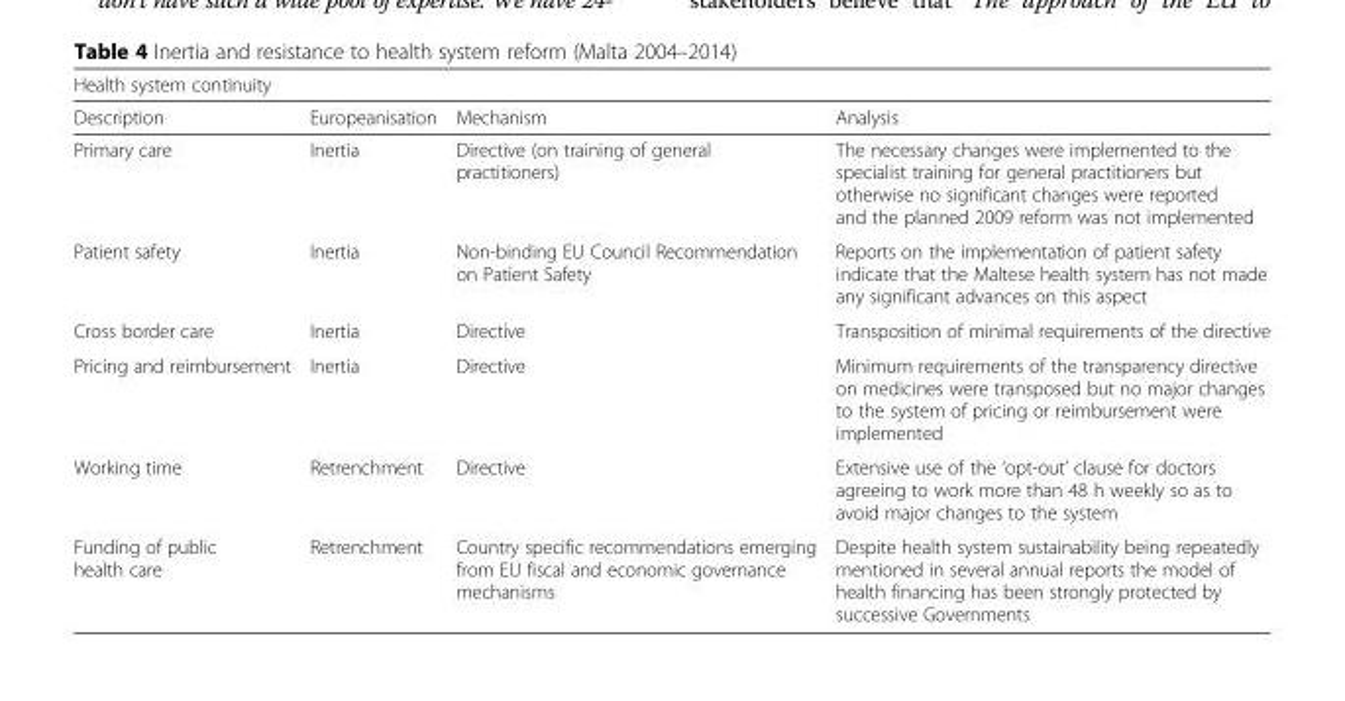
<table><thead><tr><td colspan="4">Health system continuity</td></tr><tr><td>Description</td><td>Europeanisation</td><td>Mechanism</td><td>Analysis</td></tr></thead><tbody><tr><td>Primary care</td><td>Inertia</td><td>Directive (on training of general practitioners)</td><td>The necessary changes were implemented to the specialist training for general practitioners but otherwise no significant changes were reported and the planned 2009 reform was not implemented</td></tr><tr><td>Patient safety</td><td>Inertia</td><td>Non-binding EU Council Recommendation on Patient Safety</td><td>Reports on the implementation of patient safety indicate that the Maltese health system has not made any significant advances on this aspect</td></tr><tr><td>Cross border care</td><td>Inertia</td><td>Directive</td><td>Transposition of minimal requirements of the directive</td></tr><tr><td>Pricing and reimbursement</td><td>Inertia</td><td>Directive</td><td>Minimum requirements of the transparency directive on medicines were transposed but no major changes to the system of pricing or reimbursement were implemented</td></tr><tr><td>Working time</td><td>Retrenchment</td><td>Directive</td><td>Extensive use of the ‘opt-out’ clause for doctors agreeing to work more than 48 h weekly so as to avoid major changes to the system</td></tr><tr><td>Funding of public health care</td><td>Retrenchment</td><td>Country specific recommendations emerging from EU fiscal and economic governance mechanisms</td><td>Despite health system sustainability being repeatedly mentioned in several annual reports the model of health financing has been strongly protected by successive Governments</td></tr></tbody></table>